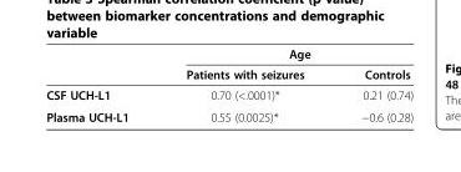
<table><thead><tr><td rowspan="2"></td><td colspan="2">Age</td></tr><tr><td>Patients with seizures</td><td>Controls</td></tr></thead><tbody><tr><td>CSF UCH-L1</td><td>0.70 (&lt;.0001)*</td><td>0.21 (0.74)</td></tr><tr><td>Plasma UCH-L1</td><td>0.55 (0.0025)*</td><td>−0.6 (0.28)</td></tr></tbody></table>